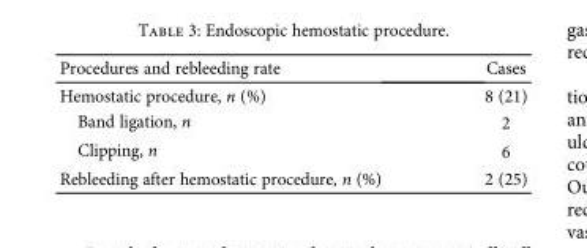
<table><thead><tr><td>Procedures and rebleeding rate</td><td>Cases</td></tr></thead><tbody><tr><td>Hemostatic procedure, n (%)</td><td>8 (21)</td></tr><tr><td>Band ligation, n</td><td>2</td></tr><tr><td>Clipping, n</td><td>6</td></tr><tr><td>Rebleeding after hemostatic procedure, n (%)</td><td>2 (25)</td></tr></tbody></table>